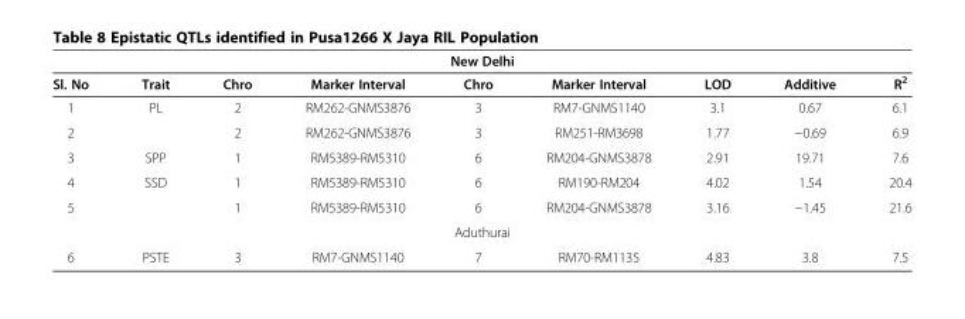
<table><thead><tr><td colspan="9">New Delhi</td></tr><tr><td>Sl. No</td><td>Trait</td><td>Chro</td><td>Marker Interval</td><td>Chro</td><td>Marker Interval</td><td>LOD</td><td>Additive</td><td>R<sup>2</sup></td></tr></thead><tbody><tr><td>1</td><td>PL</td><td>2</td><td>RM262-GNMS3876</td><td>3</td><td>RM7-GNMS1140</td><td>3.1</td><td>0.67</td><td>6.1</td></tr><tr><td>2</td><td></td><td>2</td><td>RM262-GNMS3876</td><td>3</td><td>RM251-RM3698</td><td>1.77</td><td>−0.69</td><td>6.9</td></tr><tr><td>3</td><td>SPP</td><td>1</td><td>RM5389-RM5310</td><td>6</td><td>RM204-GNMS3878</td><td>2.91</td><td>19.71</td><td>7.6</td></tr><tr><td>4</td><td>SSD</td><td>1</td><td>RM5389-RM5310</td><td>6</td><td>RM190-RM204</td><td>4.02</td><td>1.54</td><td>20.4</td></tr><tr><td>5</td><td></td><td>1</td><td>RM5389-RM5310</td><td>6</td><td>RM204-GNMS3878</td><td>3.16</td><td>−1.45</td><td>21.6</td></tr><tr><td colspan="9">Aduthurai</td></tr><tr><td>6</td><td>PSTE</td><td>3</td><td>RM7-GNMS1140</td><td>7</td><td>RM70-RM1135</td><td>4.83</td><td>3.8</td><td>7.5</td></tr></tbody></table>